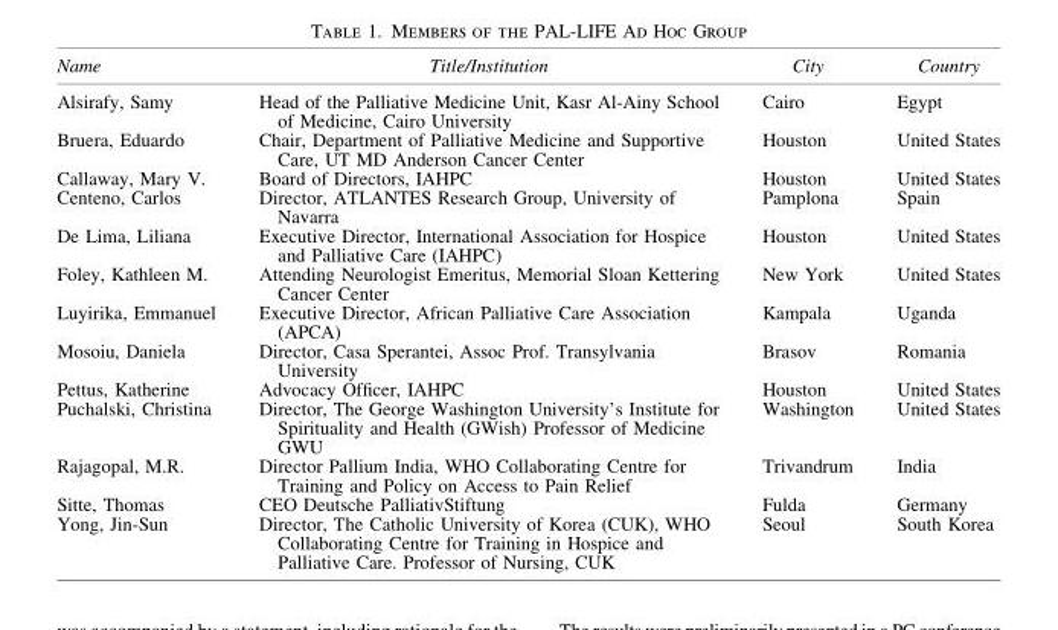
<table><thead><tr><td>Name</td><td>Title/Institution</td><td>City</td><td>Country</td></tr></thead><tbody><tr><td>Alsirafy, Samy</td><td>Head of the Palliative Medicine Unit, Kasr Al-Ainy School of Medicine, Cairo University</td><td>Cairo</td><td>Egypt</td></tr><tr><td>Bruera, Eduardo</td><td>Chair, Department of Palliative Medicine and Supportive Care, UT MD Anderson Cancer Center</td><td>Houston</td><td>United States</td></tr><tr><td>Callaway, Mary V.</td><td>Board of Directors, IAHPC</td><td>Houston</td><td>United States</td></tr><tr><td>Centeno, Carlos</td><td>Director, ATLANTES Research Group, University of Navarra</td><td>Pamplona</td><td>Spain</td></tr><tr><td>De Lima, Liliana</td><td>Executive Director, International Association for Hospice and Palliative Care (IAHPC)</td><td>Houston</td><td>United States</td></tr><tr><td>Foley, Kathleen M.</td><td>Attending Neurologist Emeritus, Memorial Sloan Kettering Cancer Center</td><td>New York</td><td>United States</td></tr><tr><td>Luyirika, Emmanuel</td><td>Executive Director, African Palliative Care Association (APCA)</td><td>Kampala</td><td>Uganda</td></tr><tr><td>Mosoiu, Daniela</td><td>Director, Casa Sperantei, Assoc Prof. Transylvania University</td><td>Brasov</td><td>Romania</td></tr><tr><td>Pettus, Katherine</td><td>Advocacy Officer, IAHPC</td><td>Houston</td><td>United States</td></tr><tr><td>Puchalski, Christina</td><td>Director, The George Washington University’s Institute for Spirituality and Health (GWish) Professor of Medicine GWU</td><td>Washington</td><td>United States</td></tr><tr><td>Rajagopal, M.R.</td><td>Director Pallium India, WHO Collaborating Centre for Training and Policy on Access to Pain Relief</td><td>Trivandrum</td><td>India</td></tr><tr><td>Sitte, Thomas</td><td>CEO Deutsche PalliativStiftung</td><td>Fulda</td><td>Germany</td></tr><tr><td>Yong, Jin-Sun</td><td>Director, The Catholic University of Korea (CUK), WHO Collaborating Centre for Training in Hospice and Palliative Care. Professor of Nursing, CUK</td><td>Seoul</td><td>South Korea</td></tr></tbody></table>